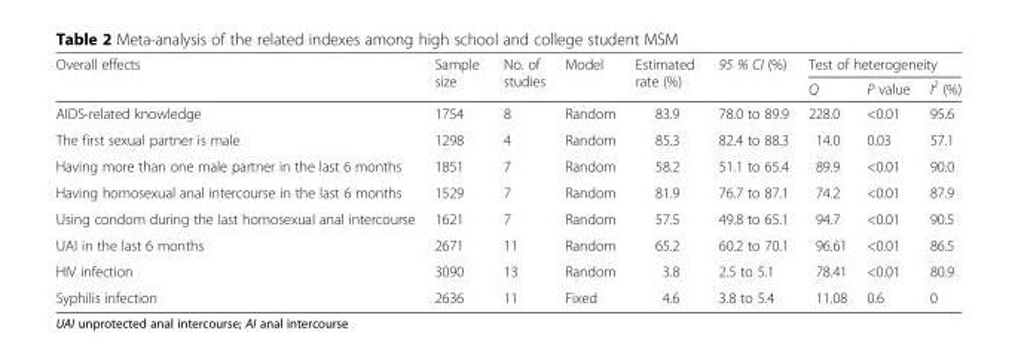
<table><thead><tr><td rowspan="2">Overall effects</td><td rowspan="2">Sample size</td><td rowspan="2">No. of studies</td><td rowspan="2">Model</td><td rowspan="2">Estimated rate (%)</td><td rowspan="2">95 % CI (%)</td><td colspan="3">Test of heterogeneity</td></tr><tr><td>Q</td><td>P value</td><td>I<sup>2</sup> (%)</td></tr></thead><tbody><tr><td>AIDS-related knowledge</td><td>1754</td><td>8</td><td>Random</td><td>83.9</td><td>78.0 to 89.9</td><td>228.0</td><td>&lt;0.01</td><td>95.6</td></tr><tr><td>The first sexual partner is male</td><td>1298</td><td>4</td><td>Random</td><td>85.3</td><td>82.4 to 88.3</td><td>14.0</td><td>0.03</td><td>57.1</td></tr><tr><td>Having more than one male partner in the last 6 months</td><td>1851</td><td>7</td><td>Random</td><td>58.2</td><td>51.1 to 65.4</td><td>89.9</td><td>&lt;0.01</td><td>90.0</td></tr><tr><td>Having homosexual anal intercourse in the last 6 months</td><td>1529</td><td>7</td><td>Random</td><td>81.9</td><td>76.7 to 87.1</td><td>74.2</td><td>&lt;0.01</td><td>87.9</td></tr><tr><td>Using condom during the last homosexual anal intercourse</td><td>1621</td><td>7</td><td>Random</td><td>57.5</td><td>49.8 to 65.1</td><td>94.7</td><td>&lt;0.01</td><td>90.5</td></tr><tr><td>UAI in the last 6 months</td><td>2671</td><td>11</td><td>Random</td><td>65.2</td><td>60.2 to 70.1</td><td>96.61</td><td>&lt;0.01</td><td>86.5</td></tr><tr><td>HIV infection</td><td>3090</td><td>13</td><td>Random</td><td>3.8</td><td>2.5 to 5.1</td><td>78.41</td><td>&lt;0.01</td><td>80.9</td></tr><tr><td>Syphilis infection</td><td>2636</td><td>11</td><td>Fixed</td><td>4.6</td><td>3.8 to 5.4</td><td>11.08</td><td>0.6</td><td>0</td></tr></tbody></table>